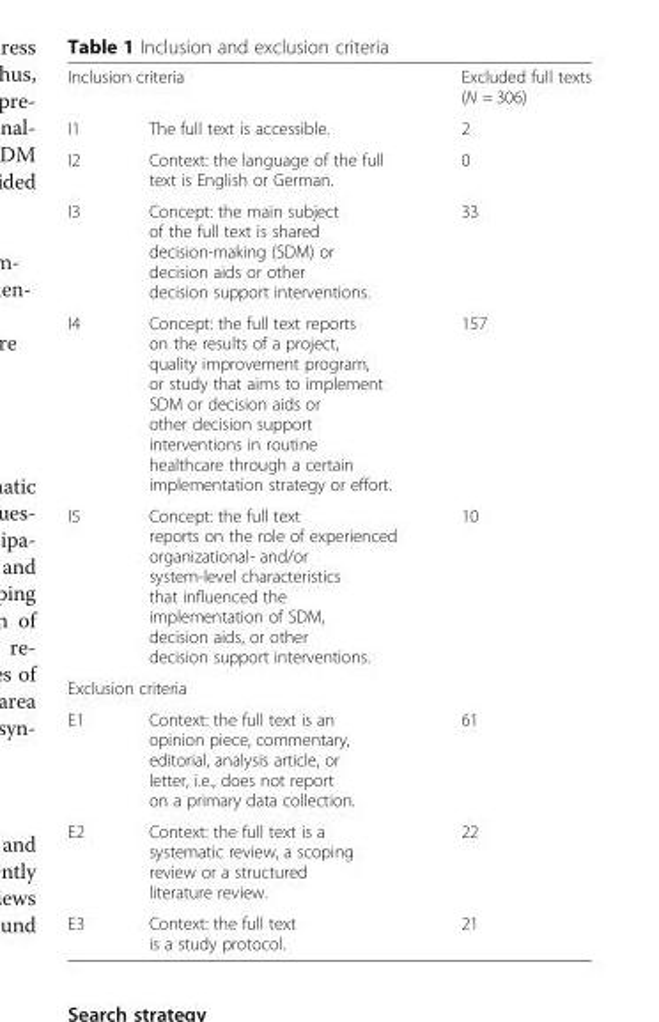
<table><tbody><tr><td colspan="2">Inclusion criteria</td><td>Excluded full texts (N = 306)</td></tr><tr><td>I1</td><td>The full text is accessible.</td><td>2</td></tr><tr><td>I2</td><td>Context: the language of the full text is English or German.</td><td>0</td></tr><tr><td>I3</td><td>Concept: the main subject of the full text is shared decision-making (SDM) or decision aids or other decision support interventions.</td><td>33</td></tr><tr><td>I4</td><td>Concept: the full text reports on the results of a project, quality improvement program, or study that aims to implement SDM or decision aids or other decision support interventions in routine healthcare through a certain implementation strategy or effort.</td><td>157</td></tr><tr><td>I5</td><td>Concept: the full text reports on the role of experienced organizational- and/or system-level characteristics that influenced the implementation of SDM, decision aids, or other decision support interventions.</td><td>10</td></tr><tr><td colspan="3">Exclusion criteria</td></tr><tr><td>E1</td><td>Context: the full text is an opinion piece, commentary, editorial, analysis article, or letter, i.e., does not report on a primary data collection.</td><td>61</td></tr><tr><td>E2</td><td>Context: the full text is a systematic review, a scoping review or a structured literature review.</td><td>22</td></tr><tr><td>E3</td><td>Context: the full text is a study protocol.</td><td>21</td></tr></tbody></table>